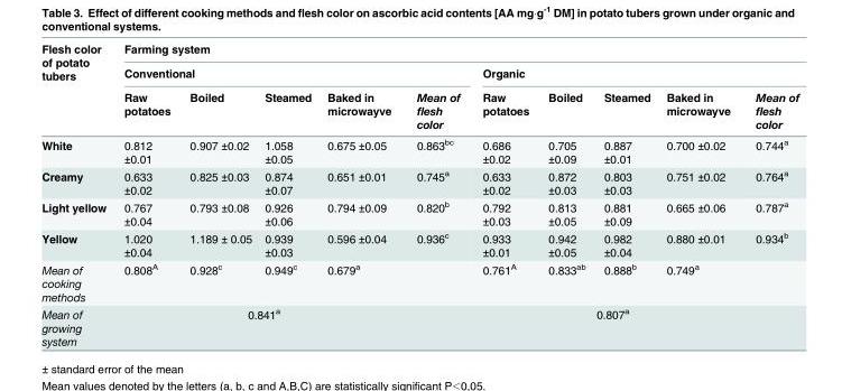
<table><thead><tr><td rowspan="3">Flesh color of potato tubers</td><td colspan="10">Farming system</td></tr><tr><td colspan="5">Conventional</td><td colspan="5">Organic</td></tr><tr><td>Raw potatoes</td><td>Boiled</td><td>Steamed</td><td>Baked in microwayve</td><td>Mean of flesh color</td><td>Raw potatoes</td><td>Boiled</td><td>Steamed</td><td>Baked in microwayve</td><td>Mean of flesh color</td></tr></thead><tbody><tr><td>White</td><td>0.812 ±0.01</td><td>0.907 ±0.02</td><td>1.058 ±0.05</td><td>0.675 ±0.05</td><td>0.863<sup>bc</sup></td><td>0.686 ±0.02</td><td>0.705 ±0.09</td><td>0.887 ±0.01</td><td>0.700 ±0.02</td><td>0.744<sup>a</sup></td></tr><tr><td>Creamy</td><td>0.633 ±0.02</td><td>0.825 ±0.03</td><td>0.874 ±0.07</td><td>0.651 ±0.01</td><td>0.745<sup>a</sup></td><td>0.633 ±0.02</td><td>0.872 ±0.03</td><td>0.803 ±0.03</td><td>0.751 ±0.02</td><td>0.764<sup>a</sup></td></tr><tr><td>Light yellow</td><td>0.767 ±0.04</td><td>0.793 ±0.08</td><td>0.926 ±0.06</td><td>0.794 ±0.09</td><td>0.820<sup>b</sup></td><td>0.792 ±0.03</td><td>0.813 ±0.05</td><td>0.881 ±0.09</td><td>0.665 ±0.06</td><td>0.787<sup>a</sup></td></tr><tr><td>Yellow</td><td>1.020 ±0.04</td><td>1.189 ± 0.05</td><td>0.939 ±0.03</td><td>0.596 ±0.04</td><td>0.936<sup>c</sup></td><td>0.933 ±0.01</td><td>0.942 ±0.05</td><td>0.982 ±0.04</td><td>0.880 ±0.01</td><td>0.934<sup>b</sup></td></tr><tr><td>Mean of cooking methods</td><td>0.808<sup>A</sup></td><td>0.928<sup>c</sup></td><td>0.949<sup>c</sup></td><td>0.679<sup>a</sup></td><td></td><td>0.761<sup>A</sup></td><td>0.833<sup>ab</sup></td><td>0.888<sup>b</sup></td><td>0.749<sup>a</sup></td><td></td></tr><tr><td>Mean of growing system</td><td colspan="4">0.841<sup>a</sup></td><td></td><td colspan="4">0.807<sup>a</sup></td><td></td></tr></tbody></table>